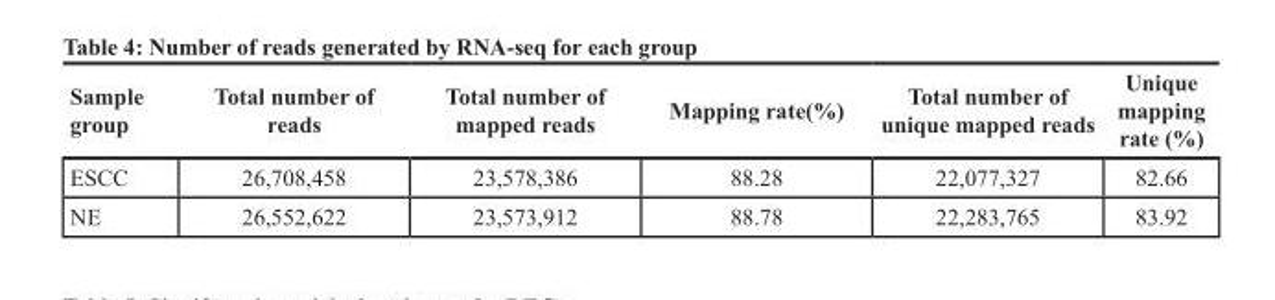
<table><thead><tr><td>Sample group</td><td>Total number of reads</td><td>Total number of mapped reads</td><td>Mapping rate(%)</td><td>Total number of unique mapped reads</td><td>Unique mapping rate (%)</td></tr></thead><tbody><tr><td>ESCC</td><td>26,708,458</td><td>23,578,386</td><td>88.28</td><td>22,077,327</td><td>82.66</td></tr><tr><td>NE</td><td>26,552,622</td><td>23,573,912</td><td>88.78</td><td>22,283,765</td><td>83.92</td></tr></tbody></table>